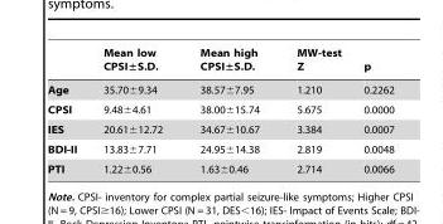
<table><thead><tr><td></td><td>Mean low CPSI±S.D.</td><td>Mean high CPSI±S.D.</td><td>MW-test Z</td><td>p</td></tr></thead><tbody><tr><td>Age</td><td>35.70±9.34</td><td>38.57±7.95</td><td>1.210</td><td>0.2262</td></tr><tr><td>CPSI</td><td>9.48±4.61</td><td>38.00±15.74</td><td>5.675</td><td>0.0000</td></tr><tr><td>IES</td><td>20.61±12.72</td><td>34.67±10.67</td><td>3.384</td><td>0.0007</td></tr><tr><td>BDI-II</td><td>13.83±7.71</td><td>24.95±14.38</td><td>2.819</td><td>0.0048</td></tr><tr><td>PTI</td><td>1.22±0.56</td><td>1.63±0.46</td><td>2.714</td><td>0.0066</td></tr></tbody></table>